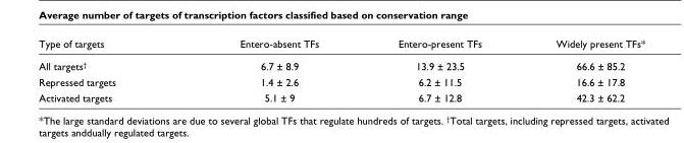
<table><thead><tr><td>Type of targets</td><td>Entero-absent TFs</td><td>Entero-present TFs</td><td>Widely present TFs*</td></tr></thead><tbody><tr><td>All targets†</td><td>6.7 ± 8.9</td><td>13.9 ± 23.5</td><td>66.6 ± 85.2</td></tr><tr><td>Repressed targets</td><td>1.4 ± 2.6</td><td>6.2 ± 11.5</td><td>16.6 ± 17.8</td></tr><tr><td>Activated targets</td><td>5.1 ± 9</td><td>6.7 ± 12.8</td><td>42.3 ± 62.2</td></tr></tbody></table>